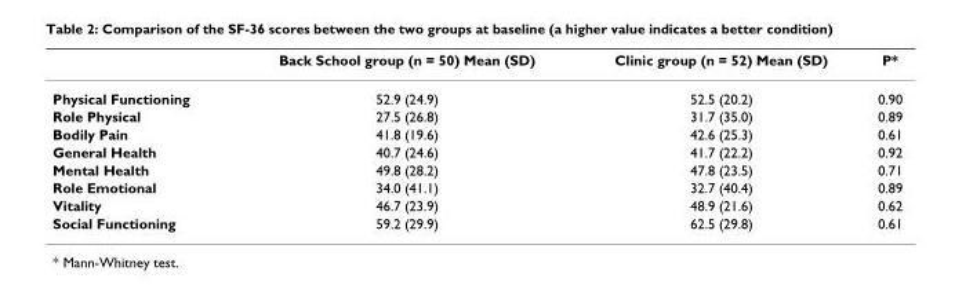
<table><thead><tr><td></td><td>Back School group (n = 50) Mean (SD)</td><td>Clinic group (n = 52) Mean (SD)</td><td>P*</td></tr></thead><tbody><tr><td>Physical Functioning</td><td>52.9 (24.9)</td><td>52.5 (20.2)</td><td>0.90</td></tr><tr><td>Role Physical</td><td>27.5 (26.8)</td><td>31.7 (35.0)</td><td>0.89</td></tr><tr><td>Bodily Pain</td><td>41.8 (19.6)</td><td>42.6 (25.3)</td><td>0.61</td></tr><tr><td>General Health</td><td>40.7 (24.6)</td><td>41.7 (22.2)</td><td>0.92</td></tr><tr><td>Mental Health</td><td>49.8 (28.2)</td><td>47.8 (23.5)</td><td>0.71</td></tr><tr><td>Role Emotional</td><td>34.0 (41.1)</td><td>32.7 (40.4)</td><td>0.89</td></tr><tr><td>Vitality</td><td>46.7 (23.9)</td><td>48.9 (21.6)</td><td>0.62</td></tr><tr><td>Social Functioning</td><td>59.2 (29.9)</td><td>62.5 (29.8)</td><td>0.61</td></tr></tbody></table>